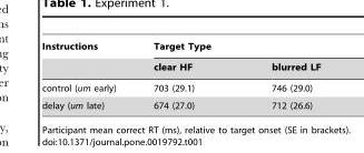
<table><thead><tr><td rowspan="2">Instructions</td><td colspan="2">Target Type</td></tr><tr><td>clear HF</td><td>blurred LF</td></tr></thead><tbody><tr><td>control (um early)</td><td>703 (29.1)</td><td>746 (29.0)</td></tr><tr><td>delay (um late)</td><td>674 (27.0)</td><td>712 (26.6)</td></tr></tbody></table>